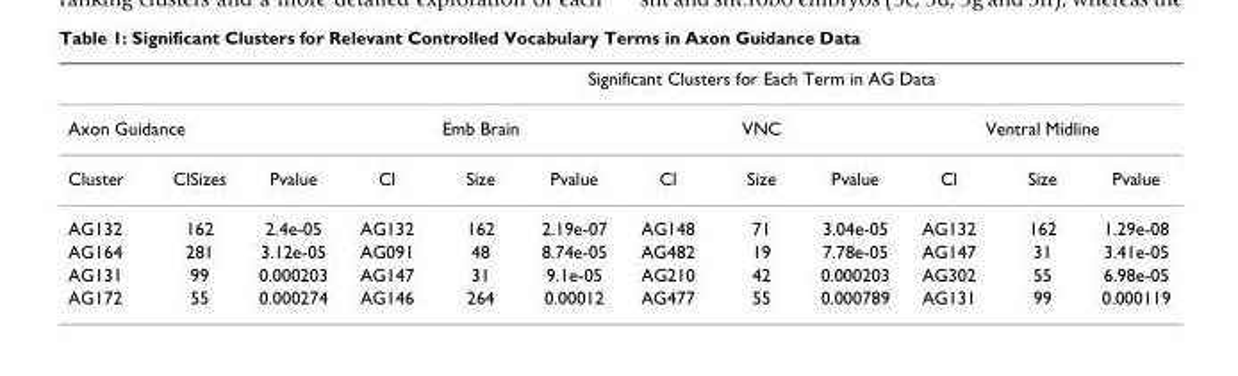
<table><thead><tr><td></td><td></td><td></td><td colspan="9">Significant Clusters for Each Term in AG Data</td></tr><tr><td colspan="3">Axon Guidance</td><td colspan="3">Emb Brain</td><td colspan="3">VNC</td><td colspan="3">Ventral Midline</td></tr><tr><td>Cluster</td><td>ClSizes</td><td>Pvalue</td><td>Cl</td><td>Size</td><td>Pvalue</td><td>Cl</td><td>Size</td><td>Pvalue</td><td>Cl</td><td>Size</td><td>Pvalue</td></tr></thead><tbody><tr><td>AG132</td><td>162</td><td>2.4e-05</td><td>AG132</td><td>162</td><td>2.19e-07</td><td>AG148</td><td>71</td><td>3.04e-05</td><td>AG132</td><td>162</td><td>1.29e-08</td></tr><tr><td>AG164</td><td>281</td><td>3.12e-05</td><td>AG091</td><td>48</td><td>8.74e-05</td><td>AG482</td><td>19</td><td>7.78e-05</td><td>AG147</td><td>31</td><td>3.41e-05</td></tr><tr><td>AG131</td><td>99</td><td>0.000203</td><td>AG147</td><td>31</td><td>9.1e-05</td><td>AG210</td><td>42</td><td>0.000203</td><td>AG302</td><td>55</td><td>6.98e-05</td></tr><tr><td>AG172</td><td>55</td><td>0.000274</td><td>AG146</td><td>264</td><td>0.00012</td><td>AG477</td><td>55</td><td>0.000789</td><td>AG131</td><td>99</td><td>0.000119</td></tr></tbody></table>